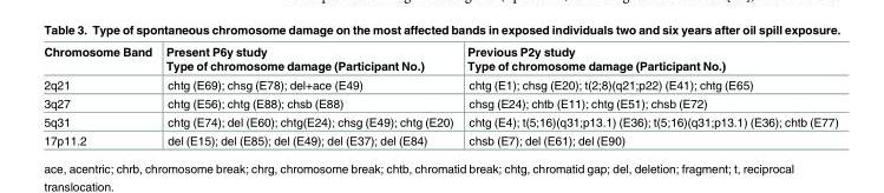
<table><thead><tr><td>Chromosome Band</td><td>Present P6y study Type of chromosome damage (Participant No.)</td><td>Previous P2y study Type of chromosome damage (Participant No.)</td></tr></thead><tbody><tr><td>2q21</td><td>chtg (E69); chsg (E78); del+ace (E49)</td><td>chtg (E1); chsg (E20); t(2;8)(q21;p22) (E41); chtg (E65)</td></tr><tr><td>3q27</td><td>chtg (E56); chtg (E88); chsb (E88)</td><td>chsg (E24); chtb (E11); chtg (E51); chsb (E72)</td></tr><tr><td>5q31</td><td>chtg (E74); del (E60); chtg(E24); chsg (E49); chtg (E20)</td><td>chtg (E4); t(5;16)(q31;p13.1) (E36); t(5;16)(q31;p13.1) (E36); chtb (E77)</td></tr><tr><td>17p11.2</td><td>del (E15); del (E85); del (E49); del (E37); del (E84)</td><td>chsb (E7); del (E61); del (E90)</td></tr></tbody></table>